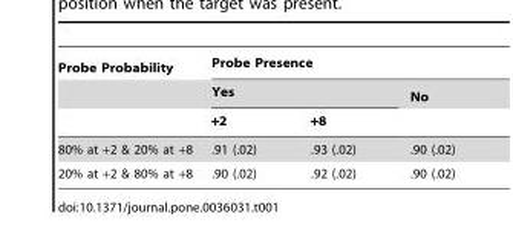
<table><thead><tr><td rowspan="3">Probe Probability</td><td colspan="3">Probe Presence</td></tr><tr><td colspan="2">Yes</td><td rowspan="2">No</td></tr><tr><td>+2</td><td>+8</td></tr></thead><tbody><tr><td>80% at +2 &amp; 20% at +8</td><td>.91 (.02)</td><td>.93 (.02)</td><td>.90 (.02)</td></tr><tr><td>20% at +2 &amp; 80% at +8</td><td>.90 (.02)</td><td>.92 (.02)</td><td>.90 (.02)</td></tr></tbody></table>